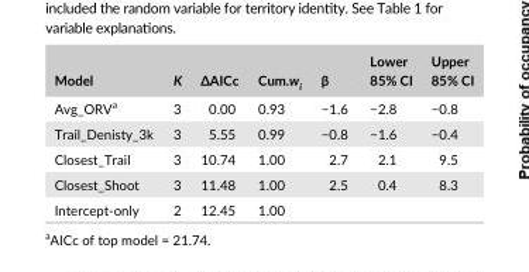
<table><thead><tr><td>Model</td><td>K</td><td>ΔAICc</td><td>Cum.w<sub>i</sub></td><td>β</td><td>Lower 85% CI</td><td>Upper 85% CI</td></tr></thead><tbody><tr><td>Avg_ORV<sup>a</sup></td><td>3</td><td>0.00</td><td>0.93</td><td>−1.6</td><td>−2.8</td><td>−0.8</td></tr><tr><td>Trail_Denisty_3k</td><td>3</td><td>5.55</td><td>0.99</td><td>−0.8</td><td>−1.6</td><td>−0.4</td></tr><tr><td>Closest_Trail</td><td>3</td><td>10.74</td><td>1.00</td><td>2.7</td><td>2.1</td><td>9.5</td></tr><tr><td>Closest_Shoot</td><td>3</td><td>11.48</td><td>1.00</td><td>2.5</td><td>0.4</td><td>8.3</td></tr><tr><td>Intercept- only</td><td>2</td><td>12.45</td><td>1.00</td><td></td><td></td><td></td></tr></tbody></table>